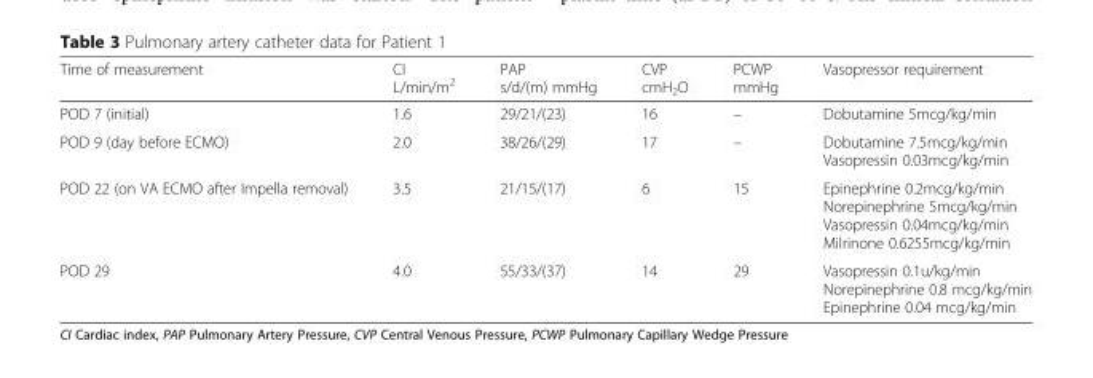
<table><thead><tr><td>Time of measurement</td><td>CI L/min/m<sup>2</sup></td><td>PAP s/d/(m) mmHg</td><td>CVP cmH<sub>2</sub>O</td><td>PCWP mmHg</td><td>Vasopressor requirement</td></tr></thead><tbody><tr><td>POD 7 (initial)</td><td>1.6</td><td>29/21/(23)</td><td>16</td><td>–</td><td>Dobutamine 5mcg/kg/min</td></tr><tr><td>POD 9 (day before ECMO)</td><td>2.0</td><td>38/26/(29)</td><td>17</td><td>–</td><td>Dobutamine 7.5mcg/kg/min Vasopressin 0.03mcg/kg/min</td></tr><tr><td>POD 22 (on VA ECMO after Impella removal)</td><td>3.5</td><td>21/15/(17)</td><td>6</td><td>15</td><td>Epinephrine 0.2mcg/kg/min Norepinephrine 5mcg/kg/min Vasopressin 0.04mcg/kg/min Milrinone 0.6255mcg/kg/min</td></tr><tr><td>POD 29</td><td>4.0</td><td>55/33/(37)</td><td>14</td><td>29</td><td>Vasopressin 0.1u/kg/min Norepinephrine 0.8 mcg/kg/min Epinephrine 0.04 mcg/kg/min</td></tr></tbody></table>